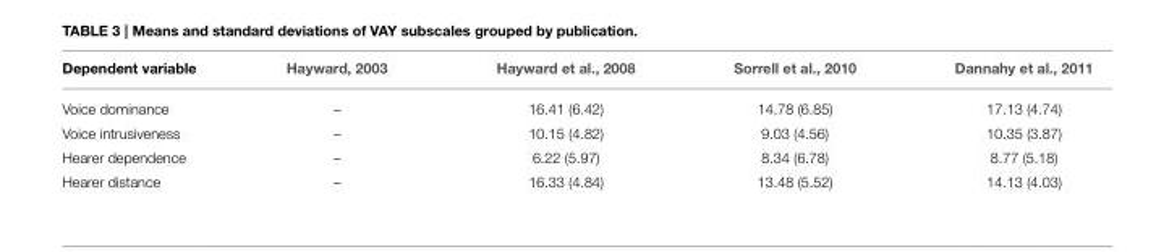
<table><thead><tr><td>Dependent variable</td><td>Hayward, 2003</td><td>Hayward et al., 2008</td><td>Sorrell et al., 2010</td><td>Dannahy et al., 2011</td></tr></thead><tbody><tr><td>Voice dominance</td><td>–</td><td>16.41 (6.42)</td><td>14.78 (6.85)</td><td>17.13 (4.74)</td></tr><tr><td>Voice intrusiveness</td><td>–</td><td>10.15 (4.82)</td><td>9.03 (4.56)</td><td>10.35 (3.87)</td></tr><tr><td>Hearer dependence</td><td>–</td><td>6.22 (5.97)</td><td>8.34 (6.78)</td><td>8.77 (5.18)</td></tr><tr><td>Hearer distance</td><td>–</td><td>16.33 (4.84)</td><td>13.48 (5.52)</td><td>14.13 (4.03)</td></tr></tbody></table>